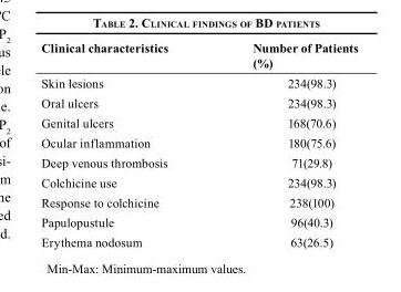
<table><thead><tr><td>Clinical characteristics</td><td>Number of Patients (%)</td></tr></thead><tbody><tr><td>Skin lesions</td><td>234(98.3)</td></tr><tr><td>Oral ulcers</td><td>234(98.3)</td></tr><tr><td>Genital ulcers</td><td>168(70.6)</td></tr><tr><td>Ocular inflammation</td><td>180(75.6)</td></tr><tr><td>Deep venous thrombosis</td><td>71(29.8)</td></tr><tr><td>Colchicine use</td><td>234(98.3)</td></tr><tr><td>Response to colchicine</td><td>238(100)</td></tr><tr><td>Papulopustule</td><td>96(40.3)</td></tr><tr><td>Erythema nodosum</td><td>63(26.5)</td></tr></tbody></table>